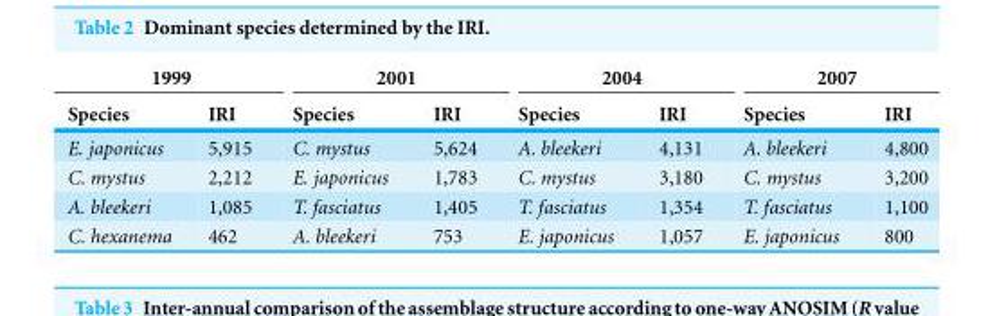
<table><thead><tr><td colspan="2">1999</td><td colspan="2">2001</td><td colspan="2">2004</td><td colspan="2">2007</td></tr><tr><td>Species</td><td>IRI</td><td>Species</td><td>IRI</td><td>Species</td><td>IRI</td><td>Species</td><td>IRI</td></tr></thead><tbody><tr><td>E. japonicus</td><td>5,915</td><td>C. mystus</td><td>5,624</td><td>A. bleekeri</td><td>4,131</td><td>A. bleekeri</td><td>4,800</td></tr><tr><td>C. mystus</td><td>2,212</td><td>E. japonicus</td><td>1,783</td><td>C. mystus</td><td>3,180</td><td>C. mystus</td><td>3,200</td></tr><tr><td>A. bleekeri</td><td>1,085</td><td>T. fasciatus</td><td>1,405</td><td>T. fasciatus</td><td>1,354</td><td>T. fasciatus</td><td>1,100</td></tr><tr><td>C. hexanema</td><td>462</td><td>A. bleekeri</td><td>753</td><td>E. japonicus</td><td>1,057</td><td>E. japonicus</td><td>800</td></tr></tbody></table>